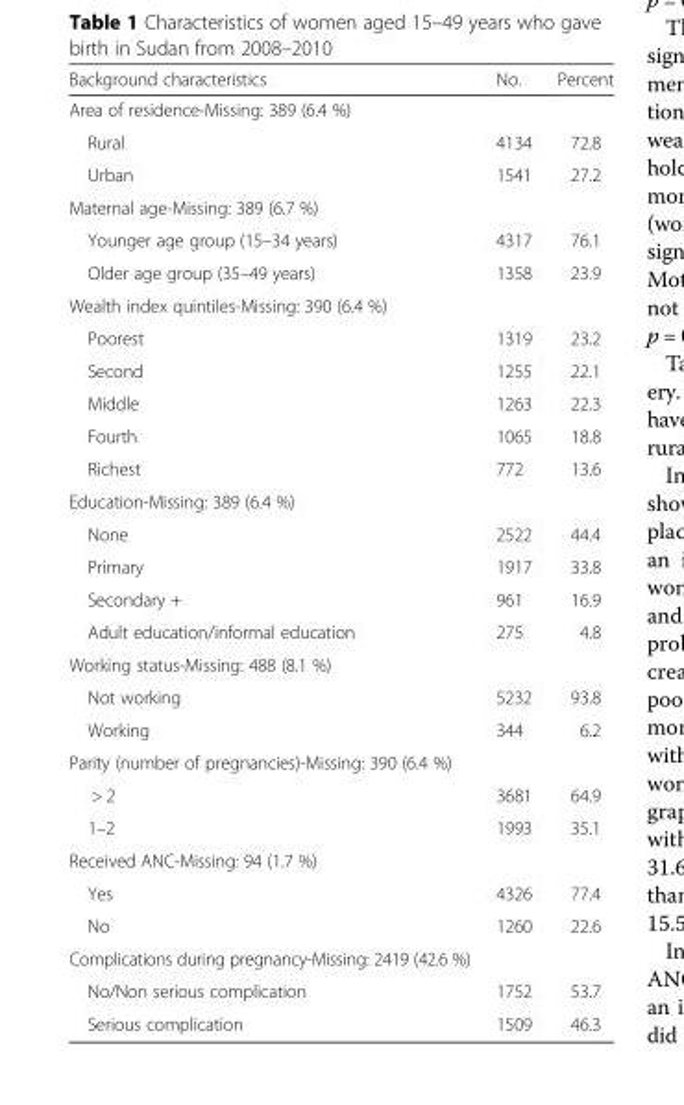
<table><thead><tr><td>Background characteristics</td><td>No.</td><td>Percent</td></tr></thead><tbody><tr><td colspan="3">Area of residence-Missing: 389 (6.4 %)</td></tr><tr><td>Rural</td><td>4134</td><td>72.8</td></tr><tr><td>Urban</td><td>1541</td><td>27.2</td></tr><tr><td colspan="3">Maternal age-Missing: 389 (6.7 %)</td></tr><tr><td>Younger age group (15–34 years)</td><td>4317</td><td>76.1</td></tr><tr><td>Older age group (35–49 years)</td><td>1358</td><td>23.9</td></tr><tr><td colspan="3">Wealth index quintiles-Missing: 390 (6.4 %)</td></tr><tr><td>Poorest</td><td>1319</td><td>23.2</td></tr><tr><td>Second</td><td>1255</td><td>22.1</td></tr><tr><td>Middle</td><td>1263</td><td>22.3</td></tr><tr><td>Fourth</td><td>1065</td><td>18.8</td></tr><tr><td>Richest</td><td>772</td><td>13.6</td></tr><tr><td colspan="3">Education-Missing: 389 (6.4 %)</td></tr><tr><td>None</td><td>2522</td><td>44.4</td></tr><tr><td>Primary</td><td>1917</td><td>33.8</td></tr><tr><td>Secondary +</td><td>961</td><td>16.9</td></tr><tr><td>Adult education/informal education</td><td>275</td><td>4.8</td></tr><tr><td colspan="3">Working status-Missing: 488 (8.1 %)</td></tr><tr><td>Not working</td><td>5232</td><td>93.8</td></tr><tr><td>Working</td><td>344</td><td>6.2</td></tr><tr><td colspan="3">Parity (number of pregnancies)-Missing: 390 (6.4 %)</td></tr><tr><td>&gt; 2</td><td>3681</td><td>64.9</td></tr><tr><td>1–2</td><td>1993</td><td>35.1</td></tr><tr><td colspan="3">Received ANC-Missing: 94 (1.7 %)</td></tr><tr><td>Yes</td><td>4326</td><td>77.4</td></tr><tr><td>No</td><td>1260</td><td>22.6</td></tr><tr><td colspan="3">Complications during pregnancy-Missing: 2419 (42.6 %)</td></tr><tr><td>No/Non serious complication</td><td>1752</td><td>53.7</td></tr><tr><td>Serious complication</td><td>1509</td><td>46.3</td></tr></tbody></table>